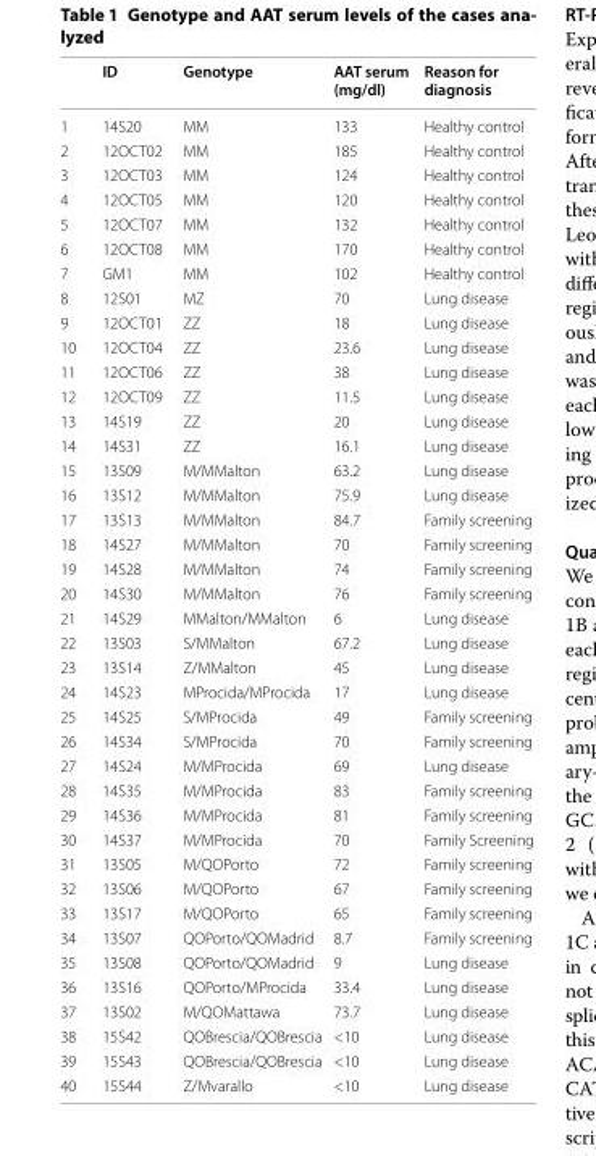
<table><thead><tr><td></td><td>ID</td><td>Genotype</td><td>AAT serum (mg/dl)</td><td>Reason for diagnosis</td></tr></thead><tbody><tr><td>1</td><td>14S20</td><td>MM</td><td>133</td><td>Healthy control</td></tr><tr><td>2</td><td>12OCT02</td><td>MM</td><td>185</td><td>Healthy control</td></tr><tr><td>3</td><td>12OCT03</td><td>MM</td><td>124</td><td>Healthy control</td></tr><tr><td>4</td><td>12OCT05</td><td>MM</td><td>120</td><td>Healthy control</td></tr><tr><td>5</td><td>12OCT07</td><td>MM</td><td>132</td><td>Healthy control</td></tr><tr><td>6</td><td>12OCT08</td><td>MM</td><td>170</td><td>Healthy control</td></tr><tr><td>7</td><td>GM1</td><td>MM</td><td>102</td><td>Healthy control</td></tr><tr><td>8</td><td>12S01</td><td>MZ</td><td>70</td><td>Lung disease</td></tr><tr><td>9</td><td>12OCT01</td><td>ZZ</td><td>18</td><td>Lung disease</td></tr><tr><td>10</td><td>12OCT04</td><td>ZZ</td><td>23.6</td><td>Lung disease</td></tr><tr><td>11</td><td>12OCT06</td><td>ZZ</td><td>38</td><td>Lung disease</td></tr><tr><td>12</td><td>12OCT09</td><td>ZZ</td><td>11.5</td><td>Lung disease</td></tr><tr><td>13</td><td>14S19</td><td>ZZ</td><td>20</td><td>Lung disease</td></tr><tr><td>14</td><td>14S31</td><td>ZZ</td><td>16.1</td><td>Lung disease</td></tr><tr><td>15</td><td>13S09</td><td>M/MMalton</td><td>63.2</td><td>Lung disease</td></tr><tr><td>16</td><td>13S12</td><td>M/MMalton</td><td>75.9</td><td>Lung disease</td></tr><tr><td>17</td><td>13S13</td><td>M/MMalton</td><td>84.7</td><td>Family screening</td></tr><tr><td>18</td><td>14S27</td><td>M/MMalton</td><td>70</td><td>Family screening</td></tr><tr><td>19</td><td>14S28</td><td>M/MMalton</td><td>74</td><td>Family screening</td></tr><tr><td>20</td><td>14S30</td><td>M/MMalton</td><td>76</td><td>Family screening</td></tr><tr><td>21</td><td>14S29</td><td>MMalton/MMalton</td><td>6</td><td>Lung disease</td></tr><tr><td>22</td><td>13S03</td><td>S/MMalton</td><td>67.2</td><td>Lung disease</td></tr><tr><td>23</td><td>13S14</td><td>Z/MMalton</td><td>45</td><td>Lung disease</td></tr><tr><td>24</td><td>14S23</td><td>MProcida/MProcida</td><td>17</td><td>Lung disease</td></tr><tr><td>25</td><td>14S25</td><td>S/MProcida</td><td>49</td><td>Family screening</td></tr><tr><td>26</td><td>14S34</td><td>S/MProcida</td><td>70</td><td>Family screening</td></tr><tr><td>27</td><td>14S24</td><td>M/MProcida</td><td>69</td><td>Lung disease</td></tr><tr><td>28</td><td>14S35</td><td>M/MProcida</td><td>83</td><td>Family screening</td></tr><tr><td>29</td><td>14S36</td><td>M/MProcida</td><td>81</td><td>Family screening</td></tr><tr><td>30</td><td>14S37</td><td>M/MProcida</td><td>70</td><td>Family Screening</td></tr><tr><td>31</td><td>13S05</td><td>M/QOPorto</td><td>72</td><td>Family screening</td></tr><tr><td>32</td><td>13S06</td><td>M/QOPorto</td><td>67</td><td>Family screening</td></tr><tr><td>33</td><td>13S17</td><td>M/QOPorto</td><td>65</td><td>Family screening</td></tr><tr><td>34</td><td>13S07</td><td>QOPorto/QOMadrid</td><td>8.7</td><td>Family screening</td></tr><tr><td>35</td><td>13S08</td><td>QOPorto/QOMadrid</td><td>9</td><td>Lung disease</td></tr><tr><td>36</td><td>13S16</td><td>QOPorto/MProcida</td><td>33.4</td><td>Lung disease</td></tr><tr><td>37</td><td>13S02</td><td>M/QOMattawa</td><td>73.7</td><td>Lung disease</td></tr><tr><td>38</td><td>15S42</td><td>QOBrescia/QOBrescia</td><td>&lt;10</td><td>Lung disease</td></tr><tr><td>39</td><td>15S43</td><td>QOBrescia/QOBrescia</td><td>&lt;10</td><td>Lung disease</td></tr><tr><td>40</td><td>15S44</td><td>Z/Mvarallo</td><td>&lt;10</td><td>Lung disease</td></tr></tbody></table>